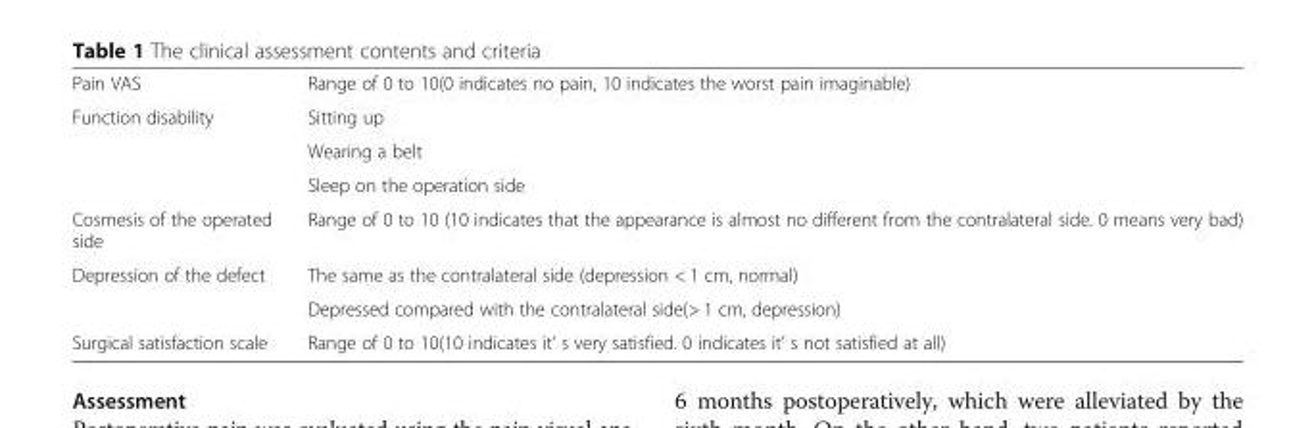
<table><tbody><tr><td>Pain VAS</td><td>Range of 0 to 10(0 indicates no pain, 10 indicates the worst pain imaginable)</td></tr><tr><td rowspan="3">Function disability</td><td>Sitting up</td></tr><tr><td>Wearing a belt</td></tr><tr><td>Sleep on the operation side</td></tr><tr><td>Cosmesis of the operated side</td><td>Range of 0 to 10 (10 indicates that the appearance is almost no different from the contralateral side. 0 means very bad)</td></tr><tr><td rowspan="2">Depression of the defect</td><td>The same as the contralateral side (depression &lt; 1 cm, normal)</td></tr><tr><td>Depressed compared with the contralateral side(&gt; 1 cm, depression)</td></tr><tr><td>Surgical satisfaction scale</td><td>Range of 0 to 10(10 indicates it’ s very satisfied. 0 indicates it’ s not satisfied at all)</td></tr></tbody></table>